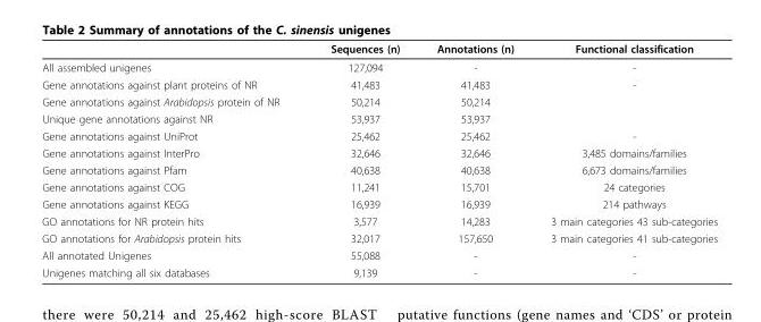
<table><thead><tr><td></td><td>Sequences (n)</td><td>Annotations (n)</td><td>Functional classification</td></tr></thead><tbody><tr><td>All assembled unigenes</td><td>127,094</td><td>-</td><td>-</td></tr><tr><td>Gene annotations against plant proteins of NR</td><td>41,483</td><td>41,483</td><td>-</td></tr><tr><td>Gene annotations against Arabidopsis protein of NR</td><td>50,214</td><td>50,214</td><td></td></tr><tr><td>Unique gene annotations against NR</td><td>53,937</td><td>53,937</td><td></td></tr><tr><td>Gene annotations against UniProt</td><td>25,462</td><td>25,462</td><td>-</td></tr><tr><td>Gene annotations against InterPro</td><td>32,646</td><td>32,646</td><td>3,485 domains/families</td></tr><tr><td>Gene annotations against Pfam</td><td>40,638</td><td>40,638</td><td>6,673 domains/families</td></tr><tr><td>Gene annotations against COG</td><td>11,241</td><td>15,701</td><td>24 categories</td></tr><tr><td>Gene annotations against KEGG</td><td>16,939</td><td>16,939</td><td>214 pathways</td></tr><tr><td>GO annotations for NR protein hits</td><td>3,577</td><td>14,283</td><td>3 main categories 43 sub-categories</td></tr><tr><td>GO annotations for Arabidopsis protein hits</td><td>32,017</td><td>157,650</td><td>3 main categories 41 sub-categories</td></tr><tr><td>All annotated Unigenes</td><td>55,088</td><td>-</td><td>-</td></tr><tr><td>Unigenes matching all six databases</td><td>9,139</td><td>-</td><td>-</td></tr></tbody></table>